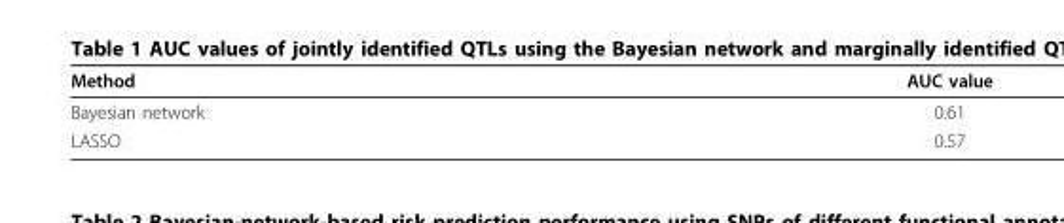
<table><thead><tr><td>Method</td><td>AUC value</td></tr></thead><tbody><tr><td>Bayesian network</td><td>0.61</td></tr><tr><td>LASSO</td><td>0.57</td></tr></tbody></table>